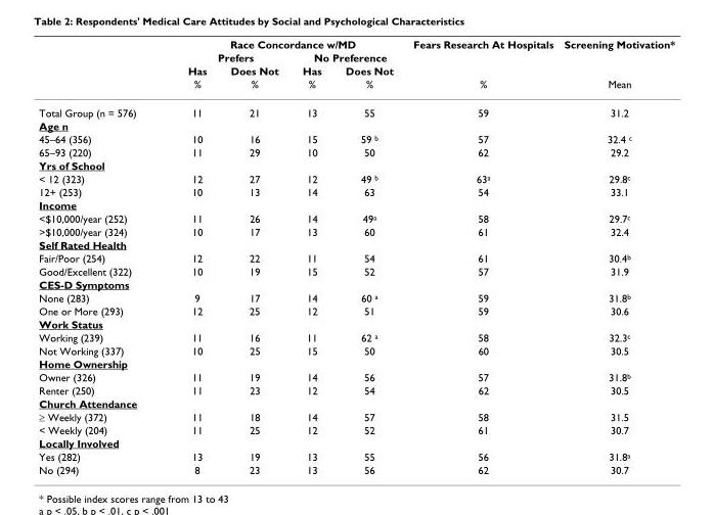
<table><thead><tr><td rowspan="4"></td><td colspan="4">Race Concordance w/MD</td><td rowspan="4">Fears Research At Hospitals %</td><td rowspan="4">Screening Motivation* Mean</td></tr><tr><td colspan="2">Prefers</td><td colspan="2">No Preference</td></tr><tr><td rowspan="2">Has %</td><td rowspan="2">Does Not %</td><td rowspan="2">Has %</td><td rowspan="2">Does Not %</td></tr><tr></tr></thead><tbody><tr><td>Total Group (n = 576)</td><td>11</td><td>21</td><td>13</td><td>55</td><td>59</td><td>31.2</td></tr><tr><td colspan="7">Age n</td></tr><tr><td>45–64 (356)</td><td>10</td><td>16</td><td>15</td><td>59 <sup>b</sup></td><td>57</td><td>32.4 <sup>c</sup></td></tr><tr><td>65–93 (220)</td><td>11</td><td>29</td><td>10</td><td>50</td><td>62</td><td>29.2</td></tr><tr><td colspan="7">Yrs of School</td></tr><tr><td>&lt; 12 (323)</td><td>12</td><td>27</td><td>12</td><td>49 <sup>b</sup></td><td>63<sup>a</sup></td><td>29.8<sup>c</sup></td></tr><tr><td>12+ (253)</td><td>10</td><td>13</td><td>14</td><td>63</td><td>54</td><td>33.1</td></tr><tr><td colspan="7">Income</td></tr><tr><td>&lt;$10,000/year (252)</td><td>11</td><td>26</td><td>14</td><td>49<sup>a</sup></td><td>58</td><td>29.7<sup>c</sup></td></tr><tr><td>&gt;$10,000/year (324)</td><td>10</td><td>17</td><td>13</td><td>60</td><td>61</td><td>32.4</td></tr><tr><td colspan="7">Self Rated Health</td></tr><tr><td>Fair/Poor (254)</td><td>12</td><td>22</td><td>11</td><td>54</td><td>61</td><td>30.4<sup>b</sup></td></tr><tr><td>Good/Excellent (322)</td><td>10</td><td>19</td><td>15</td><td>52</td><td>57</td><td>31.9</td></tr><tr><td colspan="7">CES-D Symptoms</td></tr><tr><td>None (283)</td><td>9</td><td>17</td><td>14</td><td>60 <sup>a</sup></td><td>59</td><td>31.8<sup>b</sup></td></tr><tr><td>One or More (293)</td><td>12</td><td>25</td><td>12</td><td>51</td><td>59</td><td>30.6</td></tr><tr><td colspan="7">Work Status</td></tr><tr><td>Working (239)</td><td>11</td><td>16</td><td>11</td><td>62 <sup>a</sup></td><td>58</td><td>32.3<sup>c</sup></td></tr><tr><td>Not Working (337)</td><td>10</td><td>25</td><td>15</td><td>50</td><td>60</td><td>30.5</td></tr><tr><td colspan="7">Home Ownership</td></tr><tr><td>Owner (326)</td><td>11</td><td>19</td><td>14</td><td>56</td><td>57</td><td>31.8<sup>b</sup></td></tr><tr><td>Renter (250)</td><td>11</td><td>23</td><td>12</td><td>54</td><td>62</td><td>30.5</td></tr><tr><td colspan="7">Church Attendance</td></tr><tr><td>≥ Weekly (372)</td><td>11</td><td>18</td><td>14</td><td>57</td><td>58</td><td>31.5</td></tr><tr><td>&lt; Weekly (204)</td><td>11</td><td>25</td><td>12</td><td>52</td><td>61</td><td>30.7</td></tr><tr><td colspan="7">Locally Involved</td></tr><tr><td>Yes (282)</td><td>13</td><td>19</td><td>13</td><td>55</td><td>56</td><td>31.8<sup>a</sup></td></tr><tr><td>No (294)</td><td>8</td><td>23</td><td>13</td><td>56</td><td>62</td><td>30.7</td></tr></tbody></table>